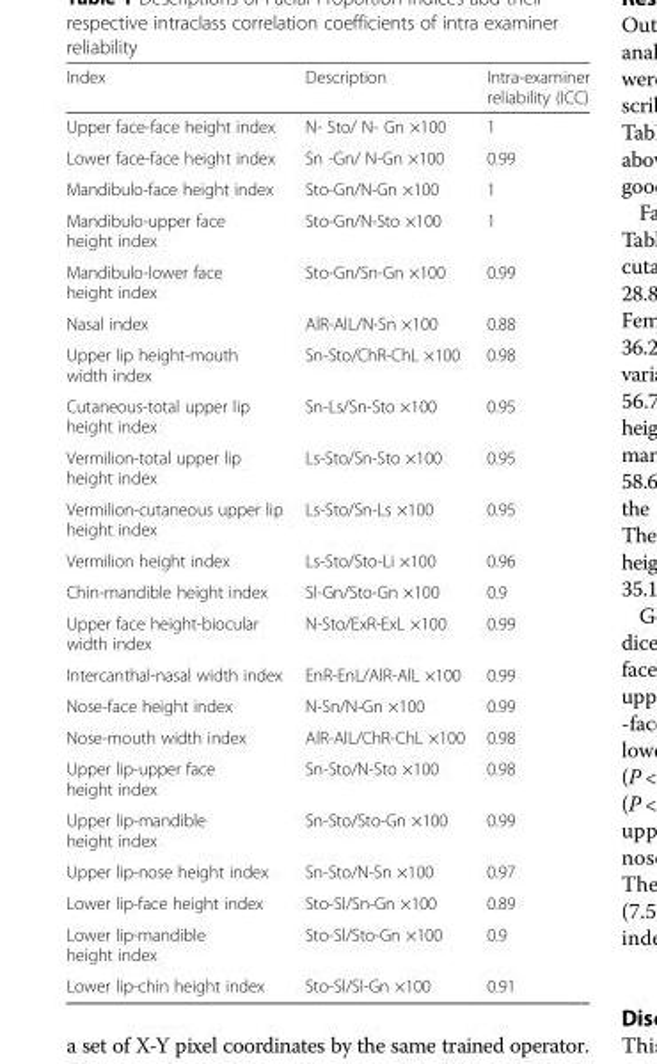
<table><thead><tr><td>Index</td><td>Description</td><td>Intra-examiner reliability (ICC)</td></tr></thead><tbody><tr><td>Upper face-face height index</td><td>N- Sto/ N- Gn ×100</td><td>1</td></tr><tr><td>Lower face-face height index</td><td>Sn -Gn/ N-Gn ×100</td><td>0.99</td></tr><tr><td>Mandibulo-face height index</td><td>Sto-Gn/N-Gn ×100</td><td>1</td></tr><tr><td>Mandibulo-upper face height index</td><td>Sto-Gn/N-Sto ×100</td><td>1</td></tr><tr><td>Mandibulo-lower face height index</td><td>Sto-Gn/Sn-Gn ×100</td><td>0.99</td></tr><tr><td>Nasal index</td><td>AlR-AlL/N-Sn ×100</td><td>0.88</td></tr><tr><td>Upper lip height-mouth width index</td><td>Sn-Sto/ChR-ChL ×100</td><td>0.98</td></tr><tr><td>Cutaneous-total upper lip height index</td><td>Sn-Ls/Sn-Sto ×100</td><td>0.95</td></tr><tr><td>Vermilion-total upper lip height index</td><td>Ls-Sto/Sn-Sto ×100</td><td>0.95</td></tr><tr><td>Vermilion-cutaneous upper lip height index</td><td>Ls-Sto/Sn-Ls ×100</td><td>0.95</td></tr><tr><td>Vermilion height index</td><td>Ls-Sto/Sto-Li ×100</td><td>0.96</td></tr><tr><td>Chin-mandible height index</td><td>Sl-Gn/Sto-Gn ×100</td><td>0.9</td></tr><tr><td>Upper face height-biocular width index</td><td>N-Sto/ExR-ExL ×100</td><td>0.99</td></tr><tr><td>Intercanthal-nasal width index</td><td>EnR-EnL/AlR-AlL ×100</td><td>0.99</td></tr><tr><td>Nose-face height index</td><td>N-Sn/N-Gn ×100</td><td>0.99</td></tr><tr><td>Nose-mouth width index</td><td>AlR-AlL/ChR-ChL ×100</td><td>0.98</td></tr><tr><td>Upper lip-upper face height index</td><td>Sn-Sto/N-Sto ×100</td><td>0.98</td></tr><tr><td>Upper lip-mandible height index</td><td>Sn-Sto/Sto-Gn ×100</td><td>0.99</td></tr><tr><td>Upper lip-nose height index</td><td>Sn-Sto/N-Sn ×100</td><td>0.97</td></tr><tr><td>Lower lip-face height index</td><td>Sto-Sl/Sn-Gn ×100</td><td>0.89</td></tr><tr><td>Lower lip-mandible height index</td><td>Sto-Sl/Sto-Gn ×100</td><td>0.9</td></tr><tr><td>Lower lip-chin height index</td><td>Sto-Sl/Sl-Gn ×100</td><td>0.91</td></tr></tbody></table>